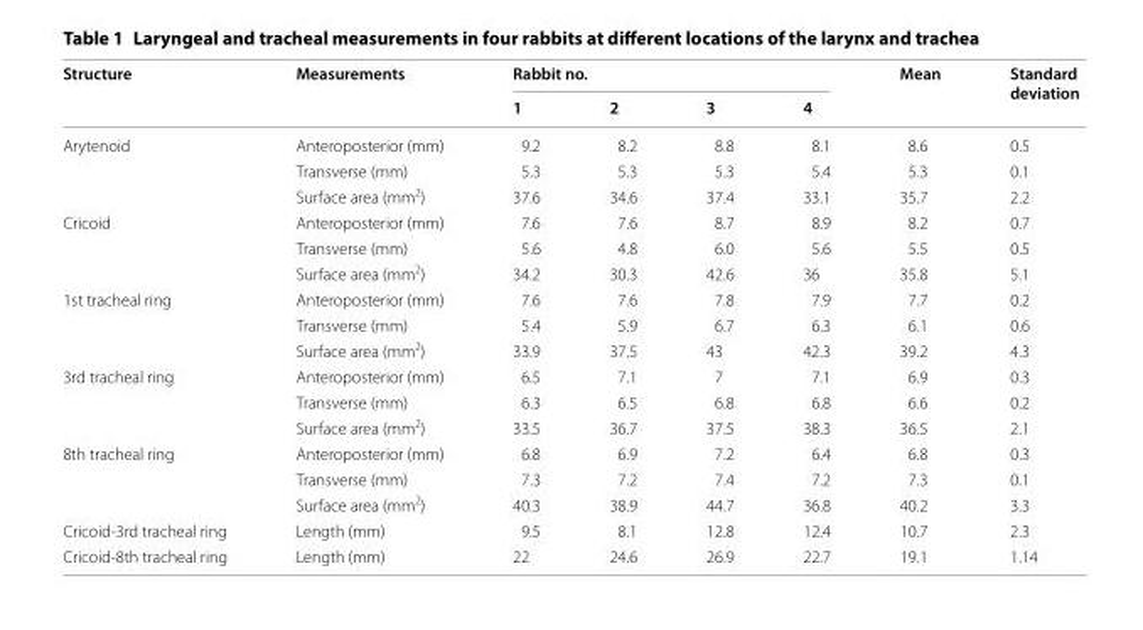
<table><thead><tr><td rowspan="2">Structure</td><td rowspan="2">Measurements</td><td colspan="4">Rabbit no.</td><td rowspan="2">Mean</td><td rowspan="2">Standard deviation</td></tr><tr><td>1</td><td>2</td><td>3</td><td>4</td></tr></thead><tbody><tr><td rowspan="3">Arytenoid</td><td>Anteroposterior (mm)</td><td>9.2</td><td>8.2</td><td>8.8</td><td>8.1</td><td>8.6</td><td>0.5</td></tr><tr><td>Transverse (mm)</td><td>5.3</td><td>5.3</td><td>5.3</td><td>5.4</td><td>5.3</td><td>0.1</td></tr><tr><td>Surface area (mm<sup>2</sup>)</td><td>37.6</td><td>34.6</td><td>37.4</td><td>33.1</td><td>35.7</td><td>2.2</td></tr><tr><td rowspan="3">Cricoid</td><td>Anteroposterior (mm)</td><td>7.6</td><td>7.6</td><td>8.7</td><td>8.9</td><td>8.2</td><td>0.7</td></tr><tr><td>Transverse (mm)</td><td>5.6</td><td>4.8</td><td>6.0</td><td>5.6</td><td>5.5</td><td>0.5</td></tr><tr><td>Surface area (mm<sup>2</sup>)</td><td>34.2</td><td>30.3</td><td>42.6</td><td>36</td><td>35.8</td><td>5.1</td></tr><tr><td rowspan="3">1st tracheal ring</td><td>Anteroposterior (mm)</td><td>7.6</td><td>7.6</td><td>7.8</td><td>7.9</td><td>7.7</td><td>0.2</td></tr><tr><td>Transverse (mm)</td><td>5.4</td><td>5.9</td><td>6.7</td><td>6.3</td><td>6.1</td><td>0.6</td></tr><tr><td>Surface area (mm<sup>2</sup>)</td><td>33.9</td><td>37.5</td><td>43</td><td>42.3</td><td>39.2</td><td>4.3</td></tr><tr><td rowspan="3">3rd tracheal ring</td><td>Anteroposterior (mm)</td><td>6.5</td><td>7.1</td><td>7</td><td>7.1</td><td>6.9</td><td>0.3</td></tr><tr><td>Transverse (mm)</td><td>6.3</td><td>6.5</td><td>6.8</td><td>6.8</td><td>6.6</td><td>0.2</td></tr><tr><td>Surface area (mm<sup>2</sup>)</td><td>33.5</td><td>36.7</td><td>37.5</td><td>38.3</td><td>36.5</td><td>2.1</td></tr><tr><td rowspan="3">8th tracheal ring</td><td>Anteroposterior (mm)</td><td>6.8</td><td>6.9</td><td>7.2</td><td>6.4</td><td>6.8</td><td>0.3</td></tr><tr><td>Transverse (mm)</td><td>7.3</td><td>7.2</td><td>7.4</td><td>7.2</td><td>7.3</td><td>0.1</td></tr><tr><td>Surface area (mm<sup>2</sup>)</td><td>40.3</td><td>38.9</td><td>44.7</td><td>36.8</td><td>40.2</td><td>3.3</td></tr><tr><td>Cricoid‑3rd tracheal ring</td><td>Length (mm)</td><td>9.5</td><td>8.1</td><td>12.8</td><td>12.4</td><td>10.7</td><td>2.3</td></tr><tr><td>Cricoid‑8th tracheal ring</td><td>Length (mm)</td><td>22</td><td>24.6</td><td>26.9</td><td>22.7</td><td>19.1</td><td>1.14</td></tr></tbody></table>